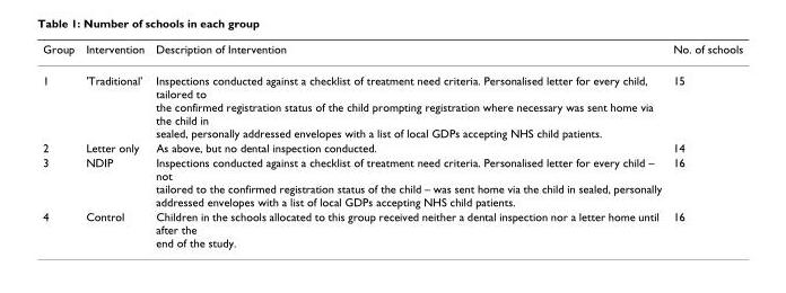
<table><thead><tr><td>Group</td><td>Intervention</td><td>Description of Intervention</td><td>No. of schools</td></tr></thead><tbody><tr><td>1</td><td>&#x27;Traditional&#x27;</td><td>Inspections conducted against a checklist of treatment need criteria. Personalised letter for every child, tailored to the confirmed registration status of the child prompting registration where necessary was sent home via the child in sealed, personally addressed envelopes with a list of local GDPs accepting NHS child patients.</td><td>15</td></tr><tr><td>2</td><td>Letter only</td><td>As above, but no dental inspection conducted.</td><td>14</td></tr><tr><td>3</td><td>NDIP</td><td>Inspections conducted against a checklist of treatment need criteria. Personalised letter for every child – not tailored to the confirmed registration status of the child – was sent home via the child in sealed, personally addressed envelopes with a list of local GDPs accepting NHS child patients.</td><td>16</td></tr><tr><td>4</td><td>Control</td><td>Children in the schools allocated to this group received neither a dental inspection nor a letter home until after the end of the study.</td><td>16</td></tr></tbody></table>